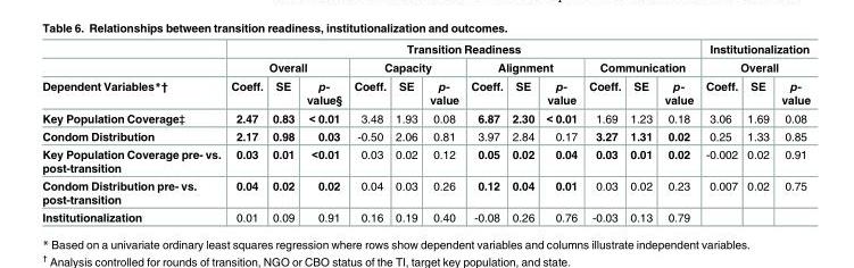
<table><thead><tr><td rowspan="3">Dependent Variables*†</td><td colspan="12">Transition Readiness</td><td rowspan="2" colspan="3">Institutionalization Overall</td></tr><tr><td colspan="3">Overall</td><td colspan="3">Capacity</td><td colspan="3">Alignment</td><td colspan="3">Communication</td></tr><tr><td>Coeff.</td><td>SE</td><td>p- value§</td><td>Coeff.</td><td>SE</td><td>p- value</td><td>Coeff.</td><td>SE</td><td>p- value</td><td>Coeff.</td><td>SE</td><td>p- value</td><td>Coeff.</td><td>SE</td><td>p- value</td></tr></thead><tbody><tr><td>Key Population Coverage‡</td><td>2.47</td><td>0.83</td><td>&lt; 0.01</td><td>3.48</td><td>1.93</td><td>0.08</td><td>6.87</td><td>2.30</td><td>&lt; 0.01</td><td>1.69</td><td>1.23</td><td>0.18</td><td>3.06</td><td>1.69</td><td>0.08</td></tr><tr><td>Condom Distribution</td><td>2.17</td><td>0.98</td><td>0.03</td><td>-0.50</td><td>2.06</td><td>0.81</td><td>3.97</td><td>2.84</td><td>0.17</td><td>3.27</td><td>1.31</td><td>0.02</td><td>0.25</td><td>1.33</td><td>0.85</td></tr><tr><td>Key Population Coverage pre- vs. post-transition</td><td>0.03</td><td>0.01</td><td>&lt;0.01</td><td>0.03</td><td>0.02</td><td>0.12</td><td>0.05</td><td>0.02</td><td>0.04</td><td>0.03</td><td>0.01</td><td>0.02</td><td>-0.002</td><td>0.02</td><td>0.91</td></tr><tr><td>Condom Distribution pre- vs. post-transition</td><td>0.04</td><td>0.02</td><td>0.02</td><td>0.04</td><td>0.03</td><td>0.26</td><td>0.12</td><td>0.04</td><td>0.01</td><td>0.03</td><td>0.02</td><td>0.23</td><td>0.007</td><td>0.02</td><td>0.75</td></tr><tr><td>Institutionalization</td><td>0.01</td><td>0.09</td><td>0.91</td><td>0.16</td><td>0.19</td><td>0.40</td><td>-0.08</td><td>0.26</td><td>0.76</td><td>-0.03</td><td>0.13</td><td>0.79</td><td></td><td></td><td></td></tr></tbody></table>